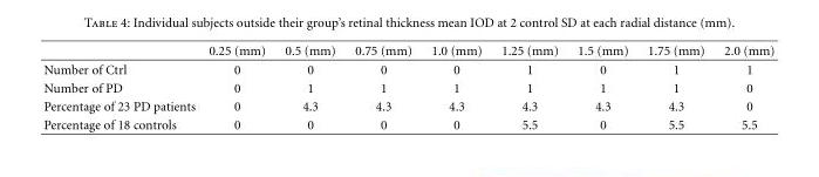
<table><thead><tr><td></td><td>0.25 (mm)</td><td>0.5 (mm)</td><td>0.75 (mm)</td><td>1.0 (mm)</td><td>1.25 (mm)</td><td>1.5 (mm)</td><td>1.75 (mm)</td><td>2.0 (mm)</td></tr></thead><tbody><tr><td>Number of Ctrl</td><td>0</td><td>0</td><td>0</td><td>0</td><td>1</td><td>0</td><td>1</td><td>1</td></tr><tr><td>Number of PD</td><td>0</td><td>1</td><td>1</td><td>1</td><td>1</td><td>1</td><td>1</td><td>0</td></tr><tr><td>Percentage of 23 PD patients</td><td>0</td><td>4.3</td><td>4.3</td><td>4.3</td><td>4.3</td><td>4.3</td><td>4.3</td><td>0</td></tr><tr><td>Percentage of 18 controls</td><td>0</td><td>0</td><td>0</td><td>0</td><td>5.5</td><td>0</td><td>5.5</td><td>5.5</td></tr></tbody></table>